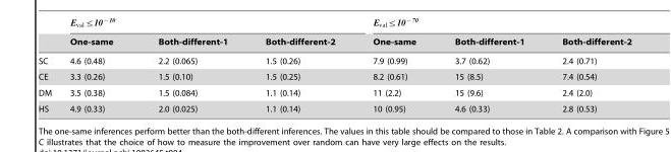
<table><thead><tr><td></td><td>One-same</td><td>Both-different-1</td><td>Both-different-2</td><td>One-same</td><td>Both-different-1</td><td>Both-different-2</td></tr></thead><tbody><tr><td>SC</td><td>4.6 (0.48)</td><td>2.2 (0.065)</td><td>1.5 (0.26)</td><td>7.9 (0.99)</td><td>3.7 (0.62)</td><td>2.4 (0.71)</td></tr><tr><td>CE</td><td>3.3 (0.26)</td><td>1.5 (0.10)</td><td>1.5 (0.25)</td><td>8.2 (0.61)</td><td>15 (8.5)</td><td>7.4 (0.54)</td></tr><tr><td>DM</td><td>3.5 (0.38)</td><td>1.5 (0.084)</td><td>1.1 (0.14)</td><td>11 (2.2)</td><td>15 (9.6)</td><td>2.4 (2.0)</td></tr><tr><td>HS</td><td>4.9 (0.33)</td><td>2.0 (0.025)</td><td>1.1 (0.14)</td><td>10 (0.95)</td><td>4.6 (0.33)</td><td>2.8 (0.53)</td></tr></tbody></table>